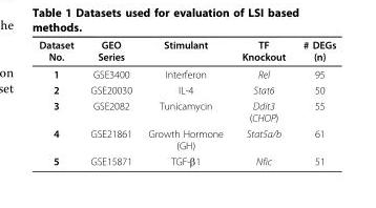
<table><thead><tr><td>Dataset No.</td><td>GEO Series</td><td>Stimulant</td><td>TF Knockout</td><td># DEGs (n)</td></tr></thead><tbody><tr><td>1</td><td>GSE3400</td><td>Interferon</td><td>Rel</td><td>95</td></tr><tr><td>2</td><td>GSE20030</td><td>IL-4</td><td>Stat6</td><td>50</td></tr><tr><td>3</td><td>GSE2082</td><td>Tunicamycin</td><td>Ddit3 (CHOP)</td><td>55</td></tr><tr><td>4</td><td>GSE21861</td><td>Growth Hormone (GH)</td><td>Stat5a/b</td><td>61</td></tr><tr><td>5</td><td>GSE15871</td><td>TGF-β1</td><td>Nfic</td><td>51</td></tr></tbody></table>